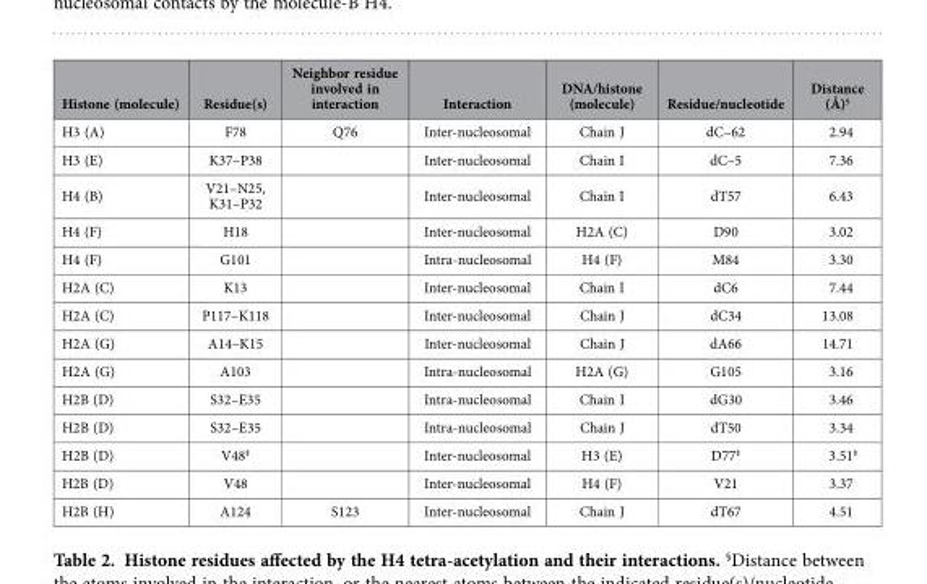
<table><thead><tr><td>Histone (molecule)</td><td>Residue(s)</td><td>Neighbor residue involved in interaction</td><td>Interaction</td><td>DNA/histone (molecule)</td><td>Residue/nucleotide</td><td>Distance (Å)<sup>§</sup></td></tr></thead><tbody><tr><td>H3 (A)</td><td>F78</td><td>Q76</td><td>Inter-nucleosomal</td><td>Chain J</td><td>dC–62</td><td>2.94</td></tr><tr><td>H3 (E)</td><td>K37–P38</td><td></td><td>Inter-nucleosomal</td><td>Chain I</td><td>dC–5</td><td>7.36</td></tr><tr><td>H4 (B)</td><td>V21–N25, K31–P32</td><td></td><td>Inter-nucleosomal</td><td>Chain I</td><td>dT57</td><td>6.43</td></tr><tr><td>H4 (F)</td><td>H18</td><td></td><td>Inter-nucleosomal</td><td>H2A (C)</td><td>D90</td><td>3.02</td></tr><tr><td>H4 (F)</td><td>G101</td><td></td><td>Intra-nucleosomal</td><td>H4 (F)</td><td>M84</td><td>3.30</td></tr><tr><td>H2A (C)</td><td>K13</td><td></td><td>Inter-nucleosomal</td><td>Chain I</td><td>dC6</td><td>7.44</td></tr><tr><td>H2A (C)</td><td>P117–K118</td><td></td><td>Inter-nucleosomal</td><td>Chain J</td><td>dC34</td><td>13.08</td></tr><tr><td>H2A (G)</td><td>A14–K15</td><td></td><td>Inter-nucleosomal</td><td>Chain J</td><td>dA66</td><td>14.71</td></tr><tr><td>H2A (G)</td><td>A103</td><td></td><td>Intra-nucleosomal</td><td>H2A (G)</td><td>G105</td><td>3.16</td></tr><tr><td>H2B (D)</td><td>S32–E35</td><td></td><td>Intra-nucleosomal</td><td>Chain I</td><td>dG30</td><td>3.46</td></tr><tr><td>H2B (D)</td><td>S32–E35</td><td></td><td>Intra-nucleosomal</td><td>Chain J</td><td>dT50</td><td>3.34</td></tr><tr><td>H2B (D)</td><td>V48<sup>‡</sup></td><td></td><td>Inter-nucleosomal</td><td>H3 (E)</td><td>D77<sup>‡</sup></td><td>3.51<sup>‡</sup></td></tr><tr><td>H2B (D)</td><td>V48</td><td></td><td>Inter-nucleosomal</td><td>H4 (F)</td><td>V21</td><td>3.37</td></tr><tr><td>H2B (H)</td><td>A124</td><td>S123</td><td>Inter-nucleosomal</td><td>Chain J</td><td>dT67</td><td>4.51</td></tr></tbody></table>